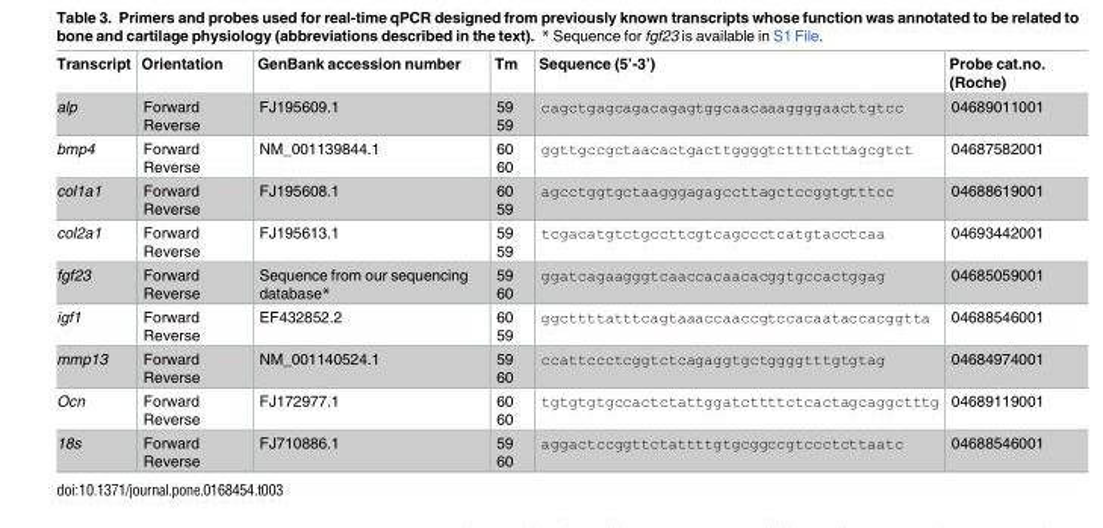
<table><thead><tr><td>Transcript</td><td>Orientation</td><td>GenBank accession number</td><td>Tm</td><td>Sequence (5’-3’)</td><td>Probe cat.no. (Roche)</td></tr></thead><tbody><tr><td>alp</td><td>Forward Reverse</td><td>FJ195609.1</td><td>59 59</td><td>cagctgagcagacagagtggcaacaaaggggaacttgtcc</td><td>04689011001</td></tr><tr><td>bmp4</td><td>Forward Reverse</td><td>NM_001139844.1</td><td>60 60</td><td>ggttgccgctaacactgacttggggtcttttcttagcgtct</td><td>04687582001</td></tr><tr><td>col1a1</td><td>Forward Reverse</td><td>FJ195608.1</td><td>60 59</td><td>agcctggtgctaagggagagccttagctccggtgtttcc</td><td>04688619001</td></tr><tr><td>col2a1</td><td>Forward Reverse</td><td>FJ195613.1</td><td>59 59</td><td>tcgacatgtctgccttcgtcagccctcatgtacctcaa</td><td>04693442001</td></tr><tr><td>fgf23</td><td>Forward Reverse</td><td>Sequence from our sequencing database*</td><td>59 60</td><td>ggatcagaagggtcaaccacaacacggtgccactggag</td><td>04685059001</td></tr><tr><td>igf1</td><td>Forward Reverse</td><td>EF432852.2</td><td>60 59</td><td>ggcttttatttcagtaaaccaaccgtccacaataccacggtta</td><td>04688546001</td></tr><tr><td>mmp13</td><td>Forward Reverse</td><td>NM_001140524.1</td><td>59 60</td><td>ccattccctcggtctcagaggtgctggggtttgtgtag</td><td>04684974001</td></tr><tr><td>Ocn</td><td>Forward Reverse</td><td>FJ172977.1</td><td>60 60</td><td>tgtgtgtgccactctattggatcttttctcactagcaggctttg</td><td>04689119001</td></tr><tr><td>18s</td><td>Forward Reverse</td><td>FJ710886.1</td><td>59 60</td><td>aggactccggttctattttgtgcggccgtccctcttaatc</td><td>04688546001</td></tr></tbody></table>